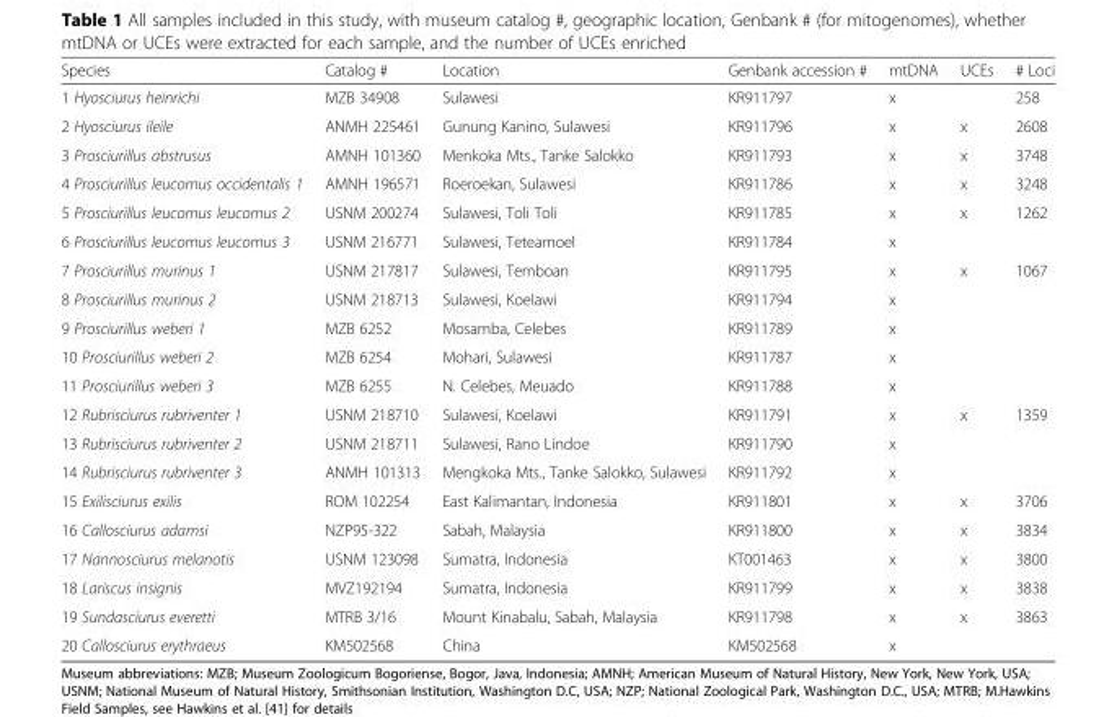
<table><thead><tr><td>Species</td><td>Catalog #</td><td>Location</td><td>Genbank accession #</td><td>mtDNA</td><td>UCEs</td><td># Loci</td></tr></thead><tbody><tr><td>1 Hyosciurus heinrichi</td><td>MZB 34908</td><td>Sulawesi</td><td>KR911797</td><td>x</td><td></td><td>258</td></tr><tr><td>2 Hyosciurus ileile</td><td>ANMH 225461</td><td>Gunung Kanino, Sulawesi</td><td>KR911796</td><td>x</td><td>x</td><td>2608</td></tr><tr><td>3 Prosciurillus abstrusus</td><td>AMNH 101360</td><td>Menkoka Mts., Tanke Salokko</td><td>KR911793</td><td>x</td><td>x</td><td>3748</td></tr><tr><td>4 Prosciurillus leucomus occidentalis 1</td><td>AMNH 196571</td><td>Roeroekan, Sulawesi</td><td>KR911786</td><td>x</td><td>x</td><td>3248</td></tr><tr><td>5 Prosciurillus leucomus leucomus 2</td><td>USNM 200274</td><td>Sulawesi, Toli Toli</td><td>KR911785</td><td>x</td><td>x</td><td>1262</td></tr><tr><td>6 Prosciurillus leucomus leucomus 3</td><td>USNM 216771</td><td>Sulawesi, Teteamoel</td><td>KR911784</td><td>x</td><td></td><td></td></tr><tr><td>7 Prosciurillus murinus 1</td><td>USNM 217817</td><td>Sulawesi, Temboan</td><td>KR911795</td><td>x</td><td>x</td><td>1067</td></tr><tr><td>8 Prosciurillus murinus 2</td><td>USNM 218713</td><td>Sulawesi, Koelawi</td><td>KR911794</td><td>x</td><td></td><td></td></tr><tr><td>9 Prosciurillus weberi 1</td><td>MZB 6252</td><td>Mosamba, Celebes</td><td>KR911789</td><td>x</td><td></td><td></td></tr><tr><td>10 Prosciurillus weberi 2</td><td>MZB 6254</td><td>Mohari, Sulawesi</td><td>KR911787</td><td>x</td><td></td><td></td></tr><tr><td>11 Prosciurillus weberi 3</td><td>MZB 6255</td><td>N. Celebes, Meuado</td><td>KR911788</td><td>x</td><td></td><td></td></tr><tr><td>12 Rubrisciurus rubriventer 1</td><td>USNM 218710</td><td>Sulawesi, Koelawi</td><td>KR911791</td><td>x</td><td>x</td><td>1359</td></tr><tr><td>13 Rubrisciurus rubriventer 2</td><td>USNM 218711</td><td>Sulawesi, Rano Lindoe</td><td>KR911790</td><td>x</td><td></td><td></td></tr><tr><td>14 Rubrisciurus rubriventer 3</td><td>ANMH 101313</td><td>Mengkoka Mts., Tanke Salokko, Sulawesi</td><td>KR911792</td><td>x</td><td></td><td></td></tr><tr><td>15 Exilisciurus exilis</td><td>ROM 102254</td><td>East Kalimantan, Indonesia</td><td>KR911801</td><td>x</td><td>x</td><td>3706</td></tr><tr><td>16 Callosciurus adamsi</td><td>NZP95-322</td><td>Sabah, Malaysia</td><td>KR911800</td><td>x</td><td>x</td><td>3834</td></tr><tr><td>17 Nannosciurus melanotis</td><td>USNM 123098</td><td>Sumatra, Indonesia</td><td>KT001463</td><td>x</td><td>x</td><td>3800</td></tr><tr><td>18 Lariscus insignis</td><td>MVZ192194</td><td>Sumatra, Indonesia</td><td>KR911799</td><td>x</td><td>x</td><td>3838</td></tr><tr><td>19 Sundasciurus everetti</td><td>MTRB 3/16</td><td>Mount Kinabalu, Sabah, Malaysia</td><td>KR911798</td><td>x</td><td>x</td><td>3863</td></tr><tr><td>20 Callosciurus erythraeus</td><td>KM502568</td><td>China</td><td>KM502568</td><td>x</td><td></td><td></td></tr></tbody></table>